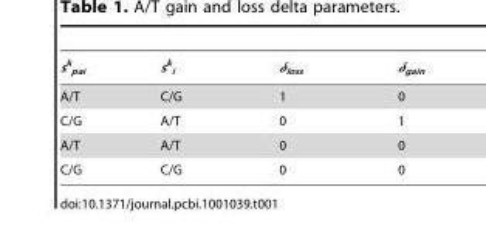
<table><thead><tr><td>s<sup>k</sup> <sub>pai</sub></td><td>s<sup>k</sup> <sub>i</sub></td><td>δ<sub>loss</sub></td><td>δ<sub>gain</sub></td></tr></thead><tbody><tr><td>A/T</td><td>C/G</td><td>1</td><td>0</td></tr><tr><td>C/G</td><td>A/T</td><td>0</td><td>1</td></tr><tr><td>A/T</td><td>A/T</td><td>0</td><td>0</td></tr><tr><td>C/G</td><td>C/G</td><td>0</td><td>0</td></tr></tbody></table>